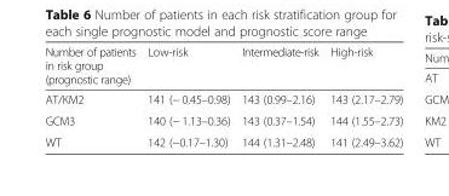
<table><thead><tr><td>Number of patients in risk group (prognostic range)</td><td>Low-risk</td><td>Intermediate-risk</td><td>High-risk</td></tr></thead><tbody><tr><td>AT/KM2</td><td>141 (− 0.45–0.98)</td><td>143 (0.99–2.16)</td><td>143 (2.17–2.79)</td></tr><tr><td>GCM3</td><td>140 (− 1.13–0.36)</td><td>143 (0.37–1.54)</td><td>144 (1.55–2.73)</td></tr><tr><td>WT</td><td>142 (−0.17–1.30)</td><td>144 (1.31–2.48)</td><td>141 (2.49–3.62)</td></tr></tbody></table>